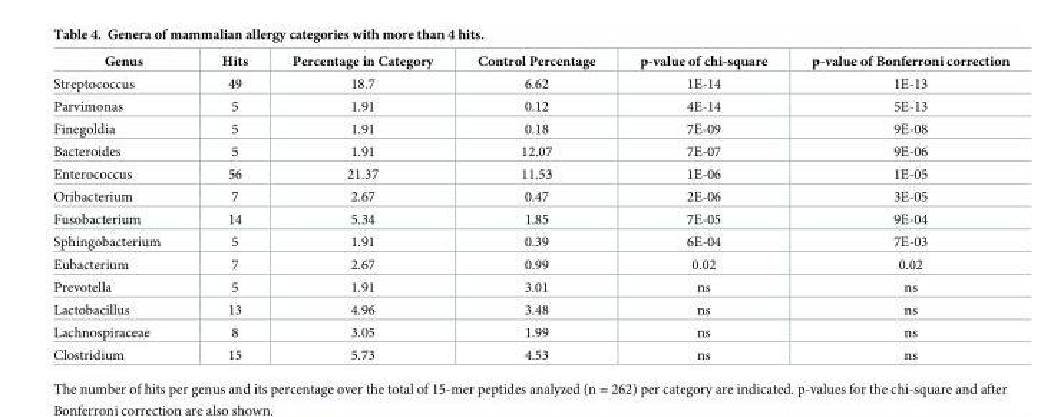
<table><thead><tr><td>Genus</td><td>Hits</td><td>Percentage in Category</td><td>Control Percentage</td><td>p-value of chi-square</td><td>p-value of Bonferroni correction</td></tr></thead><tbody><tr><td>Streptococcus</td><td>49</td><td>18.7</td><td>6.62</td><td>1E-14</td><td>1E-13</td></tr><tr><td>Parvimonas</td><td>5</td><td>1.91</td><td>0.12</td><td>4E-14</td><td>5E-13</td></tr><tr><td>Finegoldia</td><td>5</td><td>1.91</td><td>0.18</td><td>7E-09</td><td>9E-08</td></tr><tr><td>Bacteroides</td><td>5</td><td>1.91</td><td>12.07</td><td>7E-07</td><td>9E-06</td></tr><tr><td>Enterococcus</td><td>56</td><td>21.37</td><td>11.53</td><td>1E-06</td><td>1E-05</td></tr><tr><td>Oribacterium</td><td>7</td><td>2.67</td><td>0.47</td><td>2E-06</td><td>3E-05</td></tr><tr><td>Fusobacterium</td><td>14</td><td>5.34</td><td>1.85</td><td>7E-05</td><td>9E-04</td></tr><tr><td>Sphingobacterium</td><td>5</td><td>1.91</td><td>0.39</td><td>6E-04</td><td>7E-03</td></tr><tr><td>Eubacterium</td><td>7</td><td>2.67</td><td>0.99</td><td>0.02</td><td>0.02</td></tr><tr><td>Prevotella</td><td>5</td><td>1.91</td><td>3.01</td><td>ns</td><td>ns</td></tr><tr><td>Lactobacillus</td><td>13</td><td>4.96</td><td>3.48</td><td>ns</td><td>ns</td></tr><tr><td>Lachnospiraceae</td><td>8</td><td>3.05</td><td>1.99</td><td>ns</td><td>ns</td></tr><tr><td>Clostridium</td><td>15</td><td>5.73</td><td>4.53</td><td>ns</td><td>ns</td></tr></tbody></table>